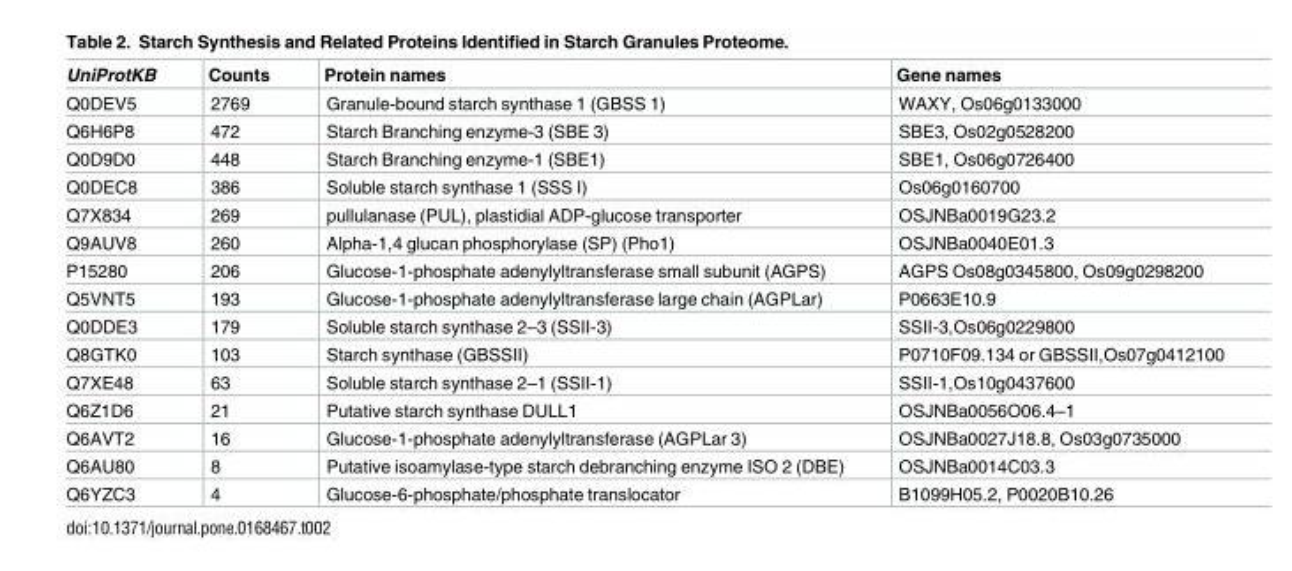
<table><thead><tr><td>UniProtKB</td><td>Counts</td><td>Protein names</td><td>Gene names</td></tr></thead><tbody><tr><td>Q0DEV5</td><td>2769</td><td>Granule-bound starch synthase 1 (GBSS 1)</td><td>WAXY, Os06g0133000</td></tr><tr><td>Q6H6P8</td><td>472</td><td>Starch Branching enzyme-3 (SBE 3)</td><td>SBE3, Os02g0528200</td></tr><tr><td>Q0D9D0</td><td>448</td><td>Starch Branching enzyme-1 (SBE1)</td><td>SBE1, Os06g0726400</td></tr><tr><td>Q0DEC8</td><td>386</td><td>Soluble starch synthase 1 (SSS I)</td><td>Os06g0160700</td></tr><tr><td>Q7X834</td><td>269</td><td>pullulanase (PUL), plastidial ADP-glucose transporter</td><td>OSJNBa0019G23.2</td></tr><tr><td>Q9AUV8</td><td>260</td><td>Alpha-1,4 glucan phosphorylase (SP) (Pho1)</td><td>OSJNBa0040E01.3</td></tr><tr><td>P15280</td><td>206</td><td>Glucose-1-phosphate adenylyltransferase small subunit (AGPS)</td><td>AGPS Os08g0345800, Os09g0298200</td></tr><tr><td>Q5VNT5</td><td>193</td><td>Glucose-1-phosphate adenylyltransferase large chain (AGPLar)</td><td>P0663E10.9</td></tr><tr><td>Q0DDE3</td><td>179</td><td>Soluble starch synthase 2–3 (SSII-3)</td><td>SSII-3,Os06g0229800</td></tr><tr><td>Q8GTK0</td><td>103</td><td>Starch synthase (GBSSII)</td><td>P0710F09.134 or GBSSII,Os07g0412100</td></tr><tr><td>Q7XE48</td><td>63</td><td>Soluble starch synthase 2–1 (SSII-1)</td><td>SSII-1,Os10g0437600</td></tr><tr><td>Q6Z1D6</td><td>21</td><td>Putative starch synthase DULL1</td><td>OSJNBa0056O06.4–1</td></tr><tr><td>Q6AVT2</td><td>16</td><td>Glucose-1-phosphate adenylyltransferase (AGPLar 3)</td><td>OSJNBa0027J18.8, Os03g0735000</td></tr><tr><td>Q6AU80</td><td>8</td><td>Putative isoamylase-type starch debranching enzyme ISO 2 (DBE)</td><td>OSJNBa0014C03.3</td></tr><tr><td>Q6YZC3</td><td>4</td><td>Glucose-6-phosphate/phosphate translocator</td><td>B1099H05.2, P0020B10.26</td></tr></tbody></table>